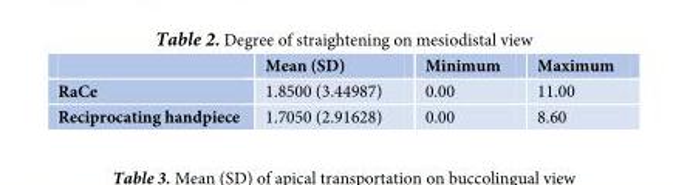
<table><thead><tr><td></td><td>Mean (SD)</td><td>Minimum</td><td>Maximum</td></tr></thead><tbody><tr><td>RaCe</td><td>1.8500 (3.44987)</td><td>0.00</td><td>11.00</td></tr><tr><td>Reciprocating handpiece</td><td>1.7050 (2.91628)</td><td>0.00</td><td>8.60</td></tr></tbody></table>